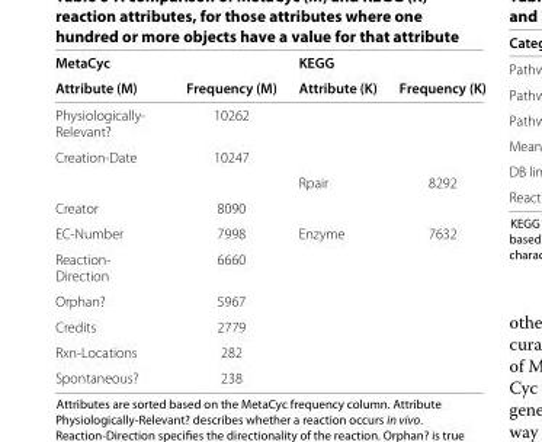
<table><thead><tr><td rowspan="2">MetaCyc Attribute (M)</td><td rowspan="2">Frequency (M)</td><td rowspan="2">KEGG Attribute (K)</td><td rowspan="2">Frequency (K)</td></tr><tr></tr></thead><tbody><tr><td>Physiologically- Relevant?</td><td>10262</td><td></td><td></td></tr><tr><td rowspan="2">Creation-Date</td><td>10247</td><td></td><td></td></tr><tr><td></td><td>Rpair</td><td>8292</td></tr><tr><td>Creator</td><td>8090</td><td></td><td></td></tr><tr><td>EC-Number</td><td>7998</td><td>Enzyme</td><td>7632</td></tr><tr><td>Reaction- Direction</td><td>6660</td><td></td><td></td></tr><tr><td>Orphan?</td><td>5967</td><td></td><td></td></tr><tr><td>Credits</td><td>2779</td><td></td><td></td></tr><tr><td>Rxn-Locations</td><td>282</td><td></td><td></td></tr><tr><td>Spontaneous?</td><td>238</td><td></td><td></td></tr></tbody></table>